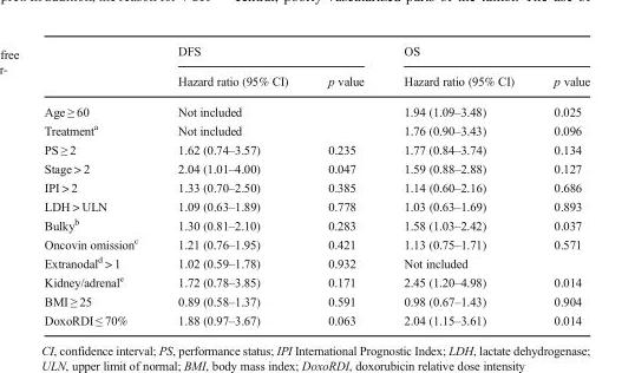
<table><thead><tr><td rowspan="2"></td><td colspan="2">DFS</td><td colspan="2">OS</td></tr><tr><td>Hazard ratio (95% CI)</td><td>p value</td><td>Hazard ratio (95% CI)</td><td>p value</td></tr></thead><tbody><tr><td>Age ≥ 60</td><td>Not included</td><td></td><td>1.94 (1.09–3.48)</td><td>0.025</td></tr><tr><td>Treatment<sup>a</sup></td><td>Not included</td><td></td><td>1.76 (0.90–3.43)</td><td>0.096</td></tr><tr><td>PS ≥ 2</td><td>1.62 (0.74–3.57)</td><td>0.235</td><td>1.77 (0.84–3.74)</td><td>0.134</td></tr><tr><td>Stage &gt; 2</td><td>2.04 (1.01–4.00)</td><td>0.047</td><td>1.59 (0.88–2.88)</td><td>0.127</td></tr><tr><td>IPI &gt; 2</td><td>1.33 (0.70–2.50)</td><td>0.385</td><td>1.14 (0.60–2.16)</td><td>0.686</td></tr><tr><td>LDH &gt; ULN</td><td>1.09 (0.63–1.89)</td><td>0.778</td><td>1.03 (0.63–1.69)</td><td>0.893</td></tr><tr><td>Bulky<sup>b</sup></td><td>1.30 (0.81–2.10)</td><td>0.283</td><td>1.58 (1.03–2.42)</td><td>0.037</td></tr><tr><td>Oncovin omission<sup>c</sup></td><td>1.21 (0.76–1.95)</td><td>0.421</td><td>1.13 (0.75–1.71)</td><td>0.571</td></tr><tr><td>Extranodal<sup>d</sup> &gt; 1</td><td>1.02 (0.59–1.78)</td><td>0.932</td><td>Not included</td><td></td></tr><tr><td>Kidney/adrenal<sup>e</sup></td><td>1.72 (0.78–3.85)</td><td>0.171</td><td>2.45 (1.20–4.98)</td><td>0.014</td></tr><tr><td>BMI ≥ 25</td><td>0.89 (0.58–1.37)</td><td>0.591</td><td>0.98 (0.67–1.43)</td><td>0.904</td></tr><tr><td>DoxoRDI ≤ 70%</td><td>1.88 (0.97–3.67)</td><td>0.063</td><td>2.04 (1.15–3.61)</td><td>0.014</td></tr></tbody></table>